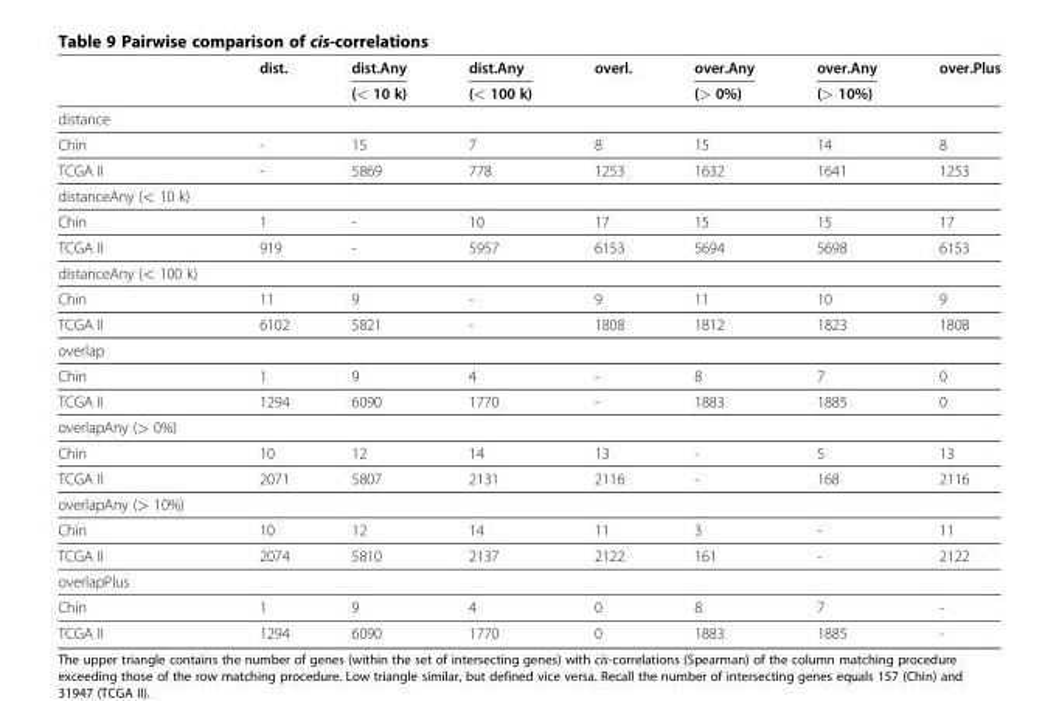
<table><thead><tr><td rowspan="2"></td><td rowspan="2">dist.</td><td rowspan="2">dist.Any (&lt; 10 k)</td><td rowspan="2">dist.Any (&lt; 100 k)</td><td rowspan="2">overl.</td><td rowspan="2">over.Any (&gt; 0%)</td><td rowspan="2">over.Any (&gt; 10%)</td><td rowspan="2">over.Plus</td></tr><tr></tr></thead><tbody><tr><td colspan="8">distance</td></tr><tr><td>Chin</td><td>-</td><td>15</td><td>7</td><td>8</td><td>15</td><td>14</td><td>8</td></tr><tr><td>TCGA II</td><td>-</td><td>5869</td><td>778</td><td>1253</td><td>1632</td><td>1641</td><td>1253</td></tr><tr><td colspan="8">distanceAny (&lt; 10 k)</td></tr><tr><td>Chin</td><td>1</td><td>-</td><td>10</td><td>17</td><td>15</td><td>15</td><td>17</td></tr><tr><td>TCGA II</td><td>919</td><td>-</td><td>5957</td><td>6153</td><td>5694</td><td>5698</td><td>6153</td></tr><tr><td colspan="8">distanceAny (&lt; 100 k)</td></tr><tr><td>Chin</td><td>11</td><td>9</td><td>-</td><td>9</td><td>11</td><td>10</td><td>9</td></tr><tr><td>TCGA II</td><td>6102</td><td>5821</td><td>-</td><td>1808</td><td>1812</td><td>1823</td><td>1808</td></tr><tr><td colspan="8">overlap</td></tr><tr><td>Chin</td><td>1</td><td>9</td><td>4</td><td>-</td><td>8</td><td>7</td><td>0</td></tr><tr><td>TCGA II</td><td>1294</td><td>6090</td><td>1770</td><td>-</td><td>1883</td><td>1885</td><td>0</td></tr><tr><td colspan="8">overlapAny (&gt; 0%)</td></tr><tr><td>Chin</td><td>10</td><td>12</td><td>14</td><td>13</td><td>-</td><td>5</td><td>13</td></tr><tr><td>TCGA II</td><td>2071</td><td>5807</td><td>2131</td><td>2116</td><td>-</td><td>168</td><td>2116</td></tr><tr><td colspan="8">overlapAny (&gt; 10%)</td></tr><tr><td>Chin</td><td>10</td><td>12</td><td>14</td><td>11</td><td>3</td><td>-</td><td>11</td></tr><tr><td>TCGA II</td><td>2074</td><td>5810</td><td>2137</td><td>2122</td><td>161</td><td>-</td><td>2122</td></tr><tr><td colspan="8">overlapPlus</td></tr><tr><td>Chin</td><td>1</td><td>9</td><td>4</td><td>0</td><td>8</td><td>7</td><td>-</td></tr><tr><td>TCGA II</td><td>1294</td><td>6090</td><td>1770</td><td>0</td><td>1883</td><td>1885</td><td>-</td></tr></tbody></table>